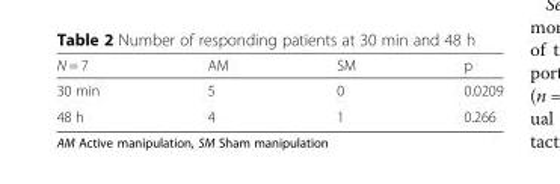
<table><thead><tr><td>N = 7</td><td>AM</td><td>SM</td><td>p</td></tr></thead><tbody><tr><td>30 min</td><td>5</td><td>0</td><td>0.0209</td></tr><tr><td>48 h</td><td>4</td><td>1</td><td>0.266</td></tr></tbody></table>